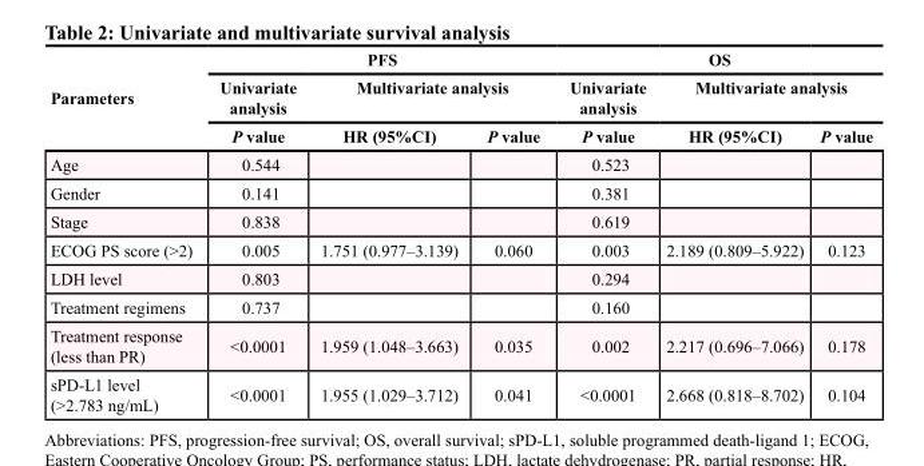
<table><thead><tr><td rowspan="3">Parameters</td><td colspan="3">PFS</td><td colspan="3">OS</td></tr><tr><td rowspan="2">Univariate analysis P value</td><td colspan="2">Multivariate analysis</td><td rowspan="2">Univariate analysis P value</td><td colspan="2">Multivariate analysis</td></tr><tr><td>HR (95%CI)</td><td>P value</td><td>HR (95%CI)</td><td>P value</td></tr></thead><tbody><tr><td>Age</td><td>0.544</td><td></td><td></td><td>0.523</td><td></td><td></td></tr><tr><td>Gender</td><td>0.141</td><td></td><td></td><td>0.381</td><td></td><td></td></tr><tr><td>Stage</td><td>0.838</td><td></td><td></td><td>0.619</td><td></td><td></td></tr><tr><td>ECOG PS score (&gt;2)</td><td>0.005</td><td>1.751 (0.977–3.139)</td><td>0.060</td><td>0.003</td><td>2.189 (0.809–5.922)</td><td>0.123</td></tr><tr><td>LDH level</td><td>0.803</td><td></td><td></td><td>0.294</td><td></td><td></td></tr><tr><td>Treatment regimens</td><td>0.737</td><td></td><td></td><td>0.160</td><td></td><td></td></tr><tr><td>Treatment response (less than PR)</td><td>&lt;0.0001</td><td>1.959 (1.048–3.663)</td><td>0.035</td><td>0.002</td><td>2.217 (0.696–7.066)</td><td>0.178</td></tr><tr><td>sPD-L1 level (&gt;2.783 ng/mL)</td><td>&lt;0.0001</td><td>1.955 (1.029–3.712)</td><td>0.041</td><td>&lt;0.0001</td><td>2.668 (0.818–8.702)</td><td>0.104</td></tr></tbody></table>